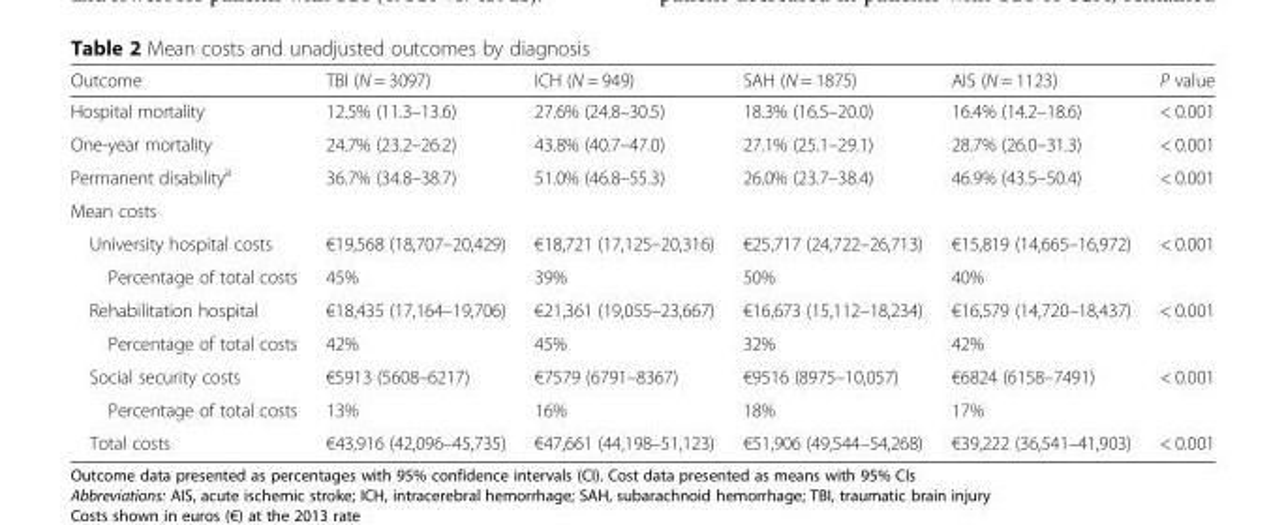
<table><thead><tr><td>Outcome</td><td>TBI (N = 3097)</td><td>ICH (N = 949)</td><td>SAH (N = 1875)</td><td>AIS (N = 1123)</td><td>P value</td></tr></thead><tbody><tr><td>Hospital mortality</td><td>12.5% (11.3–13.6)</td><td>27.6% (24.8–30.5)</td><td>18.3% (16.5–20.0)</td><td>16.4% (14.2–18.6)</td><td>&lt; 0.001</td></tr><tr><td>One-year mortality</td><td>24.7% (23.2–26.2)</td><td>43.8% (40.7–47.0)</td><td>27.1% (25.1–29.1)</td><td>28.7% (26.0–31.3)</td><td>&lt; 0.001</td></tr><tr><td>Permanent disability<sup>a</sup></td><td>36.7% (34.8–38.7)</td><td>51.0% (46.8–55.3)</td><td>26.0% (23.7–38.4)</td><td>46.9% (43.5–50.4)</td><td>&lt; 0.001</td></tr><tr><td colspan="6">Mean costs</td></tr><tr><td>University hospital costs</td><td>€19,568 (18,707–20,429)</td><td>€18,721 (17,125–20,316)</td><td>€25,717 (24,722–26,713)</td><td>€15,819 (14,665–16,972)</td><td>&lt; 0.001</td></tr><tr><td>Percentage of total costs</td><td>45%</td><td>39%</td><td>50%</td><td>40%</td><td></td></tr><tr><td>Rehabilitation hospital</td><td>€18,435 (17,164–19,706)</td><td>€21,361 (19,055–23,667)</td><td>€16,673 (15,112–18,234)</td><td>€16,579 (14,720–18,437)</td><td>&lt; 0.001</td></tr><tr><td>Percentage of total costs</td><td>42%</td><td>45%</td><td>32%</td><td>42%</td><td></td></tr><tr><td>Social security costs</td><td>€5913 (5608–6217)</td><td>€7579 (6791–8367)</td><td>€9516 (8975–10,057)</td><td>€6824 (6158–7491)</td><td>&lt; 0.001</td></tr><tr><td>Percentage of total costs</td><td>13%</td><td>16%</td><td>18%</td><td>17%</td><td></td></tr><tr><td>Total costs</td><td>€43,916 (42,096–45,735)</td><td>€47,661 (44,198–51,123)</td><td>€51,906 (49,544–54,268)</td><td>€39,222 (36,541–41,903)</td><td>&lt; 0.001</td></tr></tbody></table>